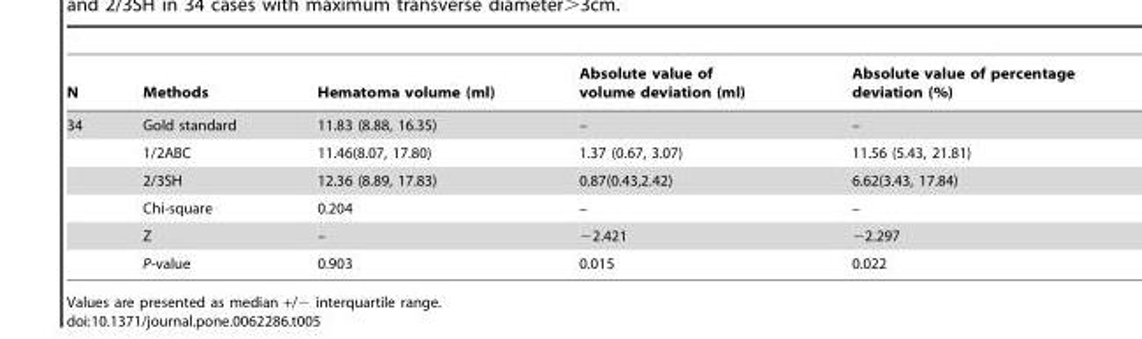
<table><thead><tr><td>N</td><td>Methods</td><td>Hematoma volume (ml)</td><td>Absolute value of volume deviation (ml)</td><td>Absolute value of percentage deviation (%)</td></tr></thead><tbody><tr><td rowspan="6">34</td><td>Gold standard</td><td>11.83 (8.88, 16.35)</td><td>–</td><td>–</td></tr><tr><td>1/2ABC</td><td>11.46(8.07, 17.80)</td><td>1.37 (0.67, 3.07)</td><td>11.56 (5.43, 21.81)</td></tr><tr><td>2/3SH</td><td>12.36 (8.89, 17.83)</td><td>0.87(0.43,2.42)</td><td>6.62(3.43, 17.84)</td></tr><tr><td>Chi-square</td><td>0.204</td><td>–</td><td>–</td></tr><tr><td>Z</td><td>–</td><td>−2.421</td><td>−2.297</td></tr><tr><td>P-value</td><td>0.903</td><td>0.015</td><td>0.022</td></tr></tbody></table>